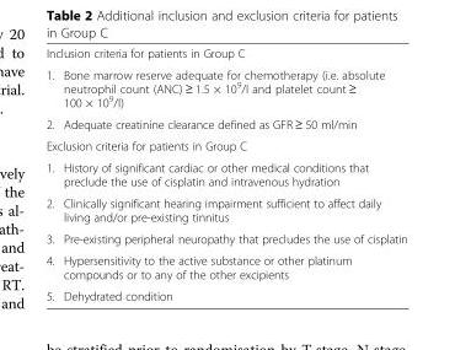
<table><tbody><tr><td colspan="2">Inclusion criteria for patients in Group C</td></tr><tr><td>1.</td><td>Bone marrow reserve adequate for chemotherapy (i.e. absolute neutrophil count (ANC) ≥ 1.5 × 10<sup>9</sup>/l and platelet count ≥ 100 × 10<sup>9</sup>/l)</td></tr><tr><td>2.</td><td>Adequate creatinine clearance defined as GFR ≥ 50 ml/min</td></tr><tr><td colspan="2">Exclusion criteria for patients in Group C</td></tr><tr><td>1.</td><td>History of significant cardiac or other medical conditions that preclude the use of cisplatin and intravenous hydration</td></tr><tr><td>2.</td><td>Clinically significant hearing impairment sufficient to affect daily living and/or pre-existing tinnitus</td></tr><tr><td>3.</td><td>Pre-existing peripheral neuropathy that precludes the use of cisplatin</td></tr><tr><td>4.</td><td>Hypersensitivity to the active substance or other platinum compounds or to any of the other excipients</td></tr><tr><td>5.</td><td>Dehydrated condition</td></tr></tbody></table>